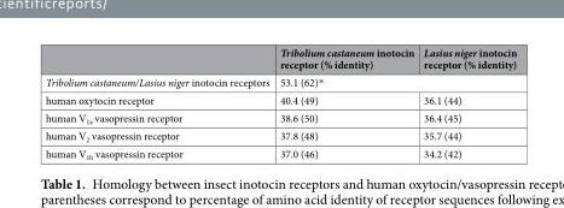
<table><thead><tr><td></td><td>Tribolium castaneum inotocin receptor (% identity)</td><td>Lasius niger inotocin receptor (% identity)</td></tr></thead><tbody><tr><td>Tribolium castaneum/Lasius niger inotocin receptors</td><td colspan="2">53.1 (62)*</td></tr><tr><td>human oxytocin receptor</td><td>40.4 (49)</td><td>36.1 (44)</td></tr><tr><td>human V<sub>1a</sub> vasopressin receptor</td><td>38.6 (50)</td><td>36.4 (45)</td></tr><tr><td>human V<sub>2</sub> vasopressin receptor</td><td>37.8 (48)</td><td>35.7 (44)</td></tr><tr><td>human V<sub>1b</sub> vasopressin receptor</td><td>37.0 (46)</td><td>34.2 (42)</td></tr></tbody></table>